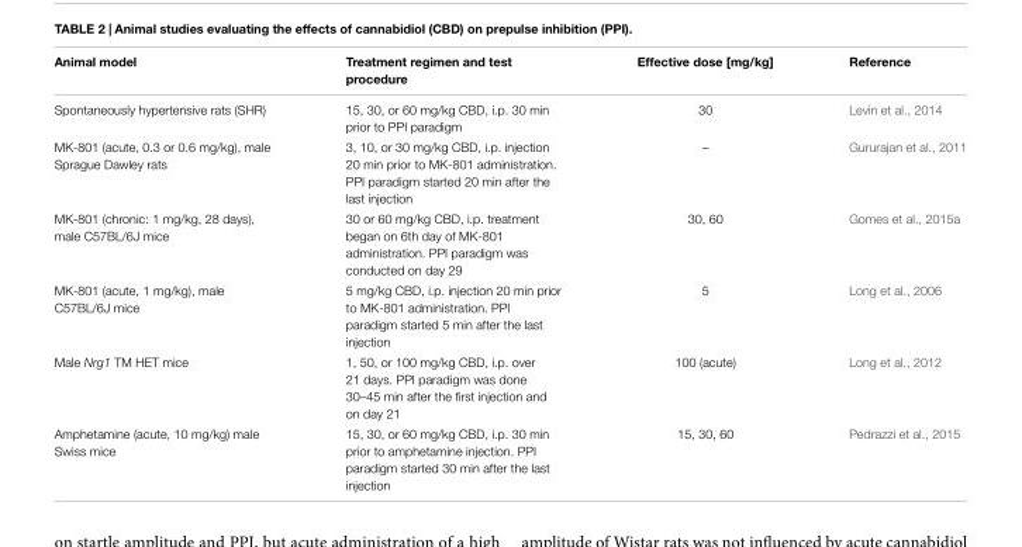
<table><thead><tr><td>Animal model</td><td>Treatment regimen and test procedure</td><td>Effective dose [mg/kg]</td><td>Reference</td></tr></thead><tbody><tr><td>Spontaneously hypertensive rats (SHR)</td><td>15, 30, or 60 mg/kg CBD, i.p. 30 min prior to PPI paradigm</td><td>30</td><td>Levin et al., 2014</td></tr><tr><td>MK-801 (acute, 0.3 or 0.6 mg/kg), male Sprague Dawley rats</td><td>3, 10, or 30 mg/kg CBD, i.p. injection 20 min prior to MK-801 administration. PPI paradigm started 20 min after the last injection</td><td>–</td><td>Gururajan et al., 2011</td></tr><tr><td>MK-801 (chronic: 1 mg/kg, 28 days), male C57BL/6J mice</td><td>30 or 60 mg/kg CBD, i.p. treatment began on 6th day of MK-801 administration. PPI paradigm was conducted on day 29</td><td>30, 60</td><td>Gomes et al., 2015a</td></tr><tr><td>MK-801 (acute, 1 mg/kg), male C57BL/6J mice</td><td>5 mg/kg CBD, i.p. injection 20 min prior to MK-801 administration. PPI paradigm started 5 min after the last injection</td><td>5</td><td>Long et al., 2006</td></tr><tr><td>Male Nrg1 TM HET mice</td><td>1, 50, or 100 mg/kg CBD, i.p. over 21 days. PPI paradigm was done 30–45 min after the first injection and on day 21</td><td>100 (acute)</td><td>Long et al., 2012</td></tr><tr><td>Amphetamine (acute, 10 mg/kg) male Swiss mice</td><td>15, 30, or 60 mg/kg CBD, i.p. 30 min prior to amphetamine injection. PPI paradigm started 30 min after the last injection</td><td>15, 30, 60</td><td>Pedrazzi et al., 2015</td></tr></tbody></table>